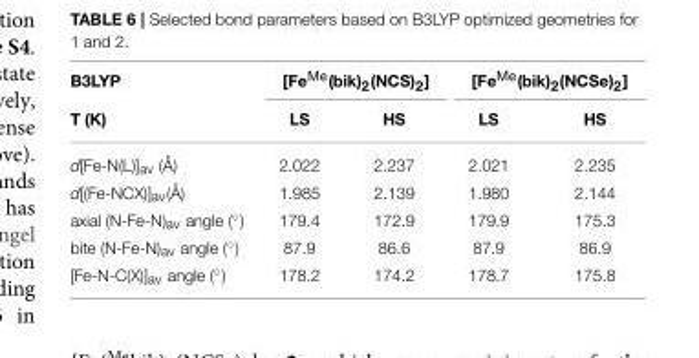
<table><thead><tr><td rowspan="2">B3LYP T (K)</td><td colspan="2">[Fe<sup>Me</sup>(bik)<sub>2</sub>(NCS)<sub>2</sub>]</td><td colspan="2">[Fe<sup>Me</sup>(bik)<sub>2</sub>(NCSe)<sub>2</sub>]</td></tr><tr><td>LS</td><td>HS</td><td>LS</td><td>HS</td></tr></thead><tbody><tr><td>d[Fe-N(L)]<sub>av</sub> (Å)</td><td>2.022</td><td>2.237</td><td>2.021</td><td>2.235</td></tr><tr><td>d[(Fe-NCX)]<sub>av</sub>(Å)</td><td>1.985</td><td>2.139</td><td>1.980</td><td>2.144</td></tr><tr><td>axial (N-Fe-N)av angle (◦)</td><td>179.4</td><td>172.9</td><td>179.9</td><td>175.3</td></tr><tr><td>bite (N-Fe-N)av angle (◦)</td><td>87.9</td><td>86.6</td><td>87.9</td><td>86.9</td></tr><tr><td>[Fe-N-C(X)]av angle (◦)</td><td>178.2</td><td>174.2</td><td>178.7</td><td>175.8</td></tr></tbody></table>